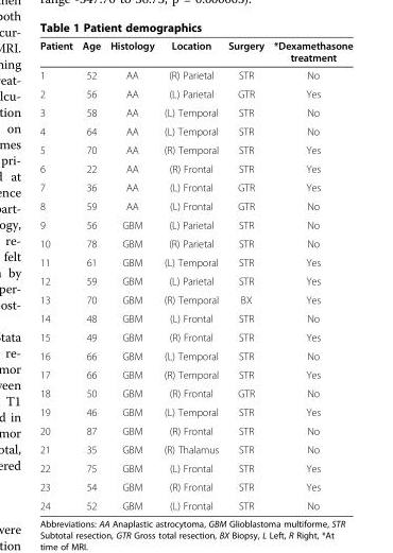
<table><thead><tr><td>Patient</td><td>Age</td><td>Histology</td><td>Location</td><td>Surgery</td><td>*Dexamethasone treatment</td></tr></thead><tbody><tr><td>1</td><td>52</td><td>AA</td><td>(R) Parietal</td><td>STR</td><td>No</td></tr><tr><td>2</td><td>56</td><td>AA</td><td>(L) Parietal</td><td>GTR</td><td>Yes</td></tr><tr><td>3</td><td>58</td><td>AA</td><td>(L) Temporal</td><td>STR</td><td>No</td></tr><tr><td>4</td><td>64</td><td>AA</td><td>(L) Temporal</td><td>STR</td><td>No</td></tr><tr><td>5</td><td>70</td><td>AA</td><td>(R) Temporal</td><td>STR</td><td>Yes</td></tr><tr><td>6</td><td>22</td><td>AA</td><td>(R) Frontal</td><td>STR</td><td>Yes</td></tr><tr><td>7</td><td>36</td><td>AA</td><td>(L) Frontal</td><td>GTR</td><td>Yes</td></tr><tr><td>8</td><td>59</td><td>AA</td><td>(L) Frontal</td><td>GTR</td><td>No</td></tr><tr><td>9</td><td>56</td><td>GBM</td><td>(L) Parietal</td><td>STR</td><td>No</td></tr><tr><td>10</td><td>78</td><td>GBM</td><td>(R) Parietal</td><td>STR</td><td>No</td></tr><tr><td>11</td><td>61</td><td>GBM</td><td>(L) Temporal</td><td>STR</td><td>Yes</td></tr><tr><td>12</td><td>59</td><td>GBM</td><td>(L) Parietal</td><td>STR</td><td>Yes</td></tr><tr><td>13</td><td>70</td><td>GBM</td><td>(R) Temporal</td><td>BX</td><td>Yes</td></tr><tr><td>14</td><td>48</td><td>GBM</td><td>(L) Frontal</td><td>STR</td><td>No</td></tr><tr><td>15</td><td>49</td><td>GBM</td><td>(R) Frontal</td><td>STR</td><td>Yes</td></tr><tr><td>16</td><td>66</td><td>GBM</td><td>(L) Temporal</td><td>STR</td><td>No</td></tr><tr><td>17</td><td>66</td><td>GBM</td><td>(R) Temporal</td><td>STR</td><td>Yes</td></tr><tr><td>18</td><td>50</td><td>GBM</td><td>(R) Frontal</td><td>GTR</td><td>No</td></tr><tr><td>19</td><td>46</td><td>GBM</td><td>(L) Temporal</td><td>STR</td><td>Yes</td></tr><tr><td>20</td><td>87</td><td>GBM</td><td>(R) Frontal</td><td>STR</td><td>No</td></tr><tr><td>21</td><td>35</td><td>GBM</td><td>(R) Thalamus</td><td>STR</td><td>No</td></tr><tr><td>22</td><td>75</td><td>GBM</td><td>(L) Frontal</td><td>STR</td><td>Yes</td></tr><tr><td>23</td><td>54</td><td>GBM</td><td>(R) Frontal</td><td>STR</td><td>Yes</td></tr><tr><td>24</td><td>52</td><td>GBM</td><td>(L) Frontal</td><td>STR</td><td>No</td></tr></tbody></table>